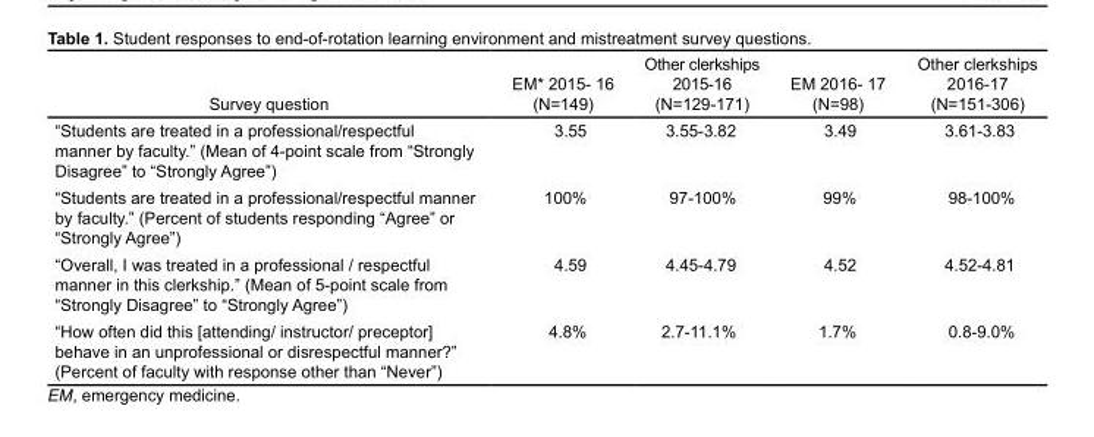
<table><thead><tr><td>Survey question</td><td>EM* 2015- 16 (N=149)</td><td>Other clerkships 2015-16 (N=129-171)</td><td>EM 2016- 17 (N=98)</td><td>Other clerkships 2016-17 (N=151-306)</td></tr></thead><tbody><tr><td>“Students are treated in a professional/respectful manner by faculty.” (Mean of 4-point scale from “Strongly Disagree” to “Strongly Agree”)</td><td>3.55</td><td>3.55-3.82</td><td>3.49</td><td>3.61-3.83</td></tr><tr><td>“Students are treated in a professional/respectful manner by faculty.” (Percent of students responding “Agree” or “Strongly Agree”)</td><td>100%</td><td>97-100%</td><td>99%</td><td>98-100%</td></tr><tr><td>“Overall, I was treated in a professional / respectful manner in this clerkship.” (Mean of 5-point scale from “Strongly Disagree” to “Strongly Agree”)</td><td>4.59</td><td>4.45-4.79</td><td>4.52</td><td>4.52-4.81</td></tr><tr><td>“How often did this [attending/ instructor/ preceptor] behave in an unprofessional or disrespectful manner?” (Percent of faculty with response other than “Never”)</td><td>4.8%</td><td>2.7-11.1%</td><td>1.7%</td><td>0.8-9.0%</td></tr></tbody></table>